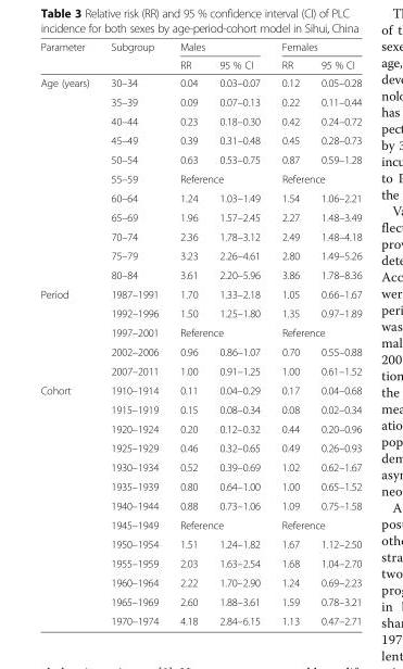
<table><thead><tr><td rowspan="2">Parameter</td><td rowspan="2">Subgroup</td><td colspan="2">Males</td><td colspan="2">Females</td></tr><tr><td>RR</td><td>95 % CI</td><td>RR</td><td>95 % CI</td></tr></thead><tbody><tr><td rowspan="11">Age (years)</td><td>30–34</td><td>0.04</td><td>0.03–0.07</td><td>0.12</td><td>0.05–0.28</td></tr><tr><td>35–39</td><td>0.09</td><td>0.07–0.13</td><td>0.22</td><td>0.11–0.44</td></tr><tr><td>40–44</td><td>0.23</td><td>0.18–0.30</td><td>0.42</td><td>0.24–0.72</td></tr><tr><td>45–49</td><td>0.39</td><td>0.31–0.48</td><td>0.45</td><td>0.28–0.73</td></tr><tr><td>50–54</td><td>0.63</td><td>0.53–0.75</td><td>0.87</td><td>0.59–1.28</td></tr><tr><td>55–59</td><td colspan="2">Reference</td><td colspan="2">Reference</td></tr><tr><td>60–64</td><td>1.24</td><td>1.03–1.49</td><td>1.54</td><td>1.06–2.21</td></tr><tr><td>65–69</td><td>1.96</td><td>1.57–2.45</td><td>2.27</td><td>1.48–3.49</td></tr><tr><td>70–74</td><td>2.36</td><td>1.78–3.12</td><td>2.49</td><td>1.48–4.18</td></tr><tr><td>75–79</td><td>3.23</td><td>2.26–4.61</td><td>2.80</td><td>1.49–5.26</td></tr><tr><td>80–84</td><td>3.61</td><td>2.20–5.96</td><td>3.86</td><td>1.78–8.36</td></tr><tr><td rowspan="5">Period</td><td>1987–1991</td><td>1.70</td><td>1.33–2.18</td><td>1.05</td><td>0.66–1.67</td></tr><tr><td>1992–1996</td><td>1.50</td><td>1.25–1.80</td><td>1.35</td><td>0.97–1.89</td></tr><tr><td>1997–2001</td><td colspan="2">Reference</td><td colspan="2">Reference</td></tr><tr><td>2002–2006</td><td>0.96</td><td>0.86–1.07</td><td>0.70</td><td>0.55–0.88</td></tr><tr><td>2007–2011</td><td>1.00</td><td>0.91–1.25</td><td>1.00</td><td>0.61–1.52</td></tr><tr><td rowspan="13">Cohort</td><td>1910–1914</td><td>0.11</td><td>0.04–0.29</td><td>0.17</td><td>0.04–0.68</td></tr><tr><td>1915–1919</td><td>0.15</td><td>0.08–0.34</td><td>0.08</td><td>0.02–0.34</td></tr><tr><td>1920–1924</td><td>0.20</td><td>0.12–0.32</td><td>0.44</td><td>0.20–0.96</td></tr><tr><td>1925–1929</td><td>0.46</td><td>0.32–0.65</td><td>0.49</td><td>0.26–0.93</td></tr><tr><td>1930–1934</td><td>0.52</td><td>0.39–0.69</td><td>1.02</td><td>0.62–1.67</td></tr><tr><td>1935–1939</td><td>0.80</td><td>0.64–1.00</td><td>1.00</td><td>0.65–1.52</td></tr><tr><td>1940–1944</td><td>0.88</td><td>0.73–1.06</td><td>1.09</td><td>0.75–1.58</td></tr><tr><td>1945–1949</td><td colspan="2">Reference</td><td colspan="2">Reference</td></tr><tr><td>1950–1954</td><td>1.51</td><td>1.24–1.82</td><td>1.67</td><td>1.12–2.50</td></tr><tr><td>1955–1959</td><td>2.03</td><td>1.63–2.54</td><td>1.68</td><td>1.04–2.70</td></tr><tr><td>1960–1964</td><td>2.22</td><td>1.70–2.90</td><td>1.24</td><td>0.69–2.23</td></tr><tr><td>1965–1969</td><td>2.60</td><td>1.88–3.61</td><td>1.59</td><td>0.78–3.21</td></tr><tr><td>1970–1974</td><td>4.18</td><td>2.84–6.15</td><td>1.13</td><td>0.47–2.71</td></tr></tbody></table>